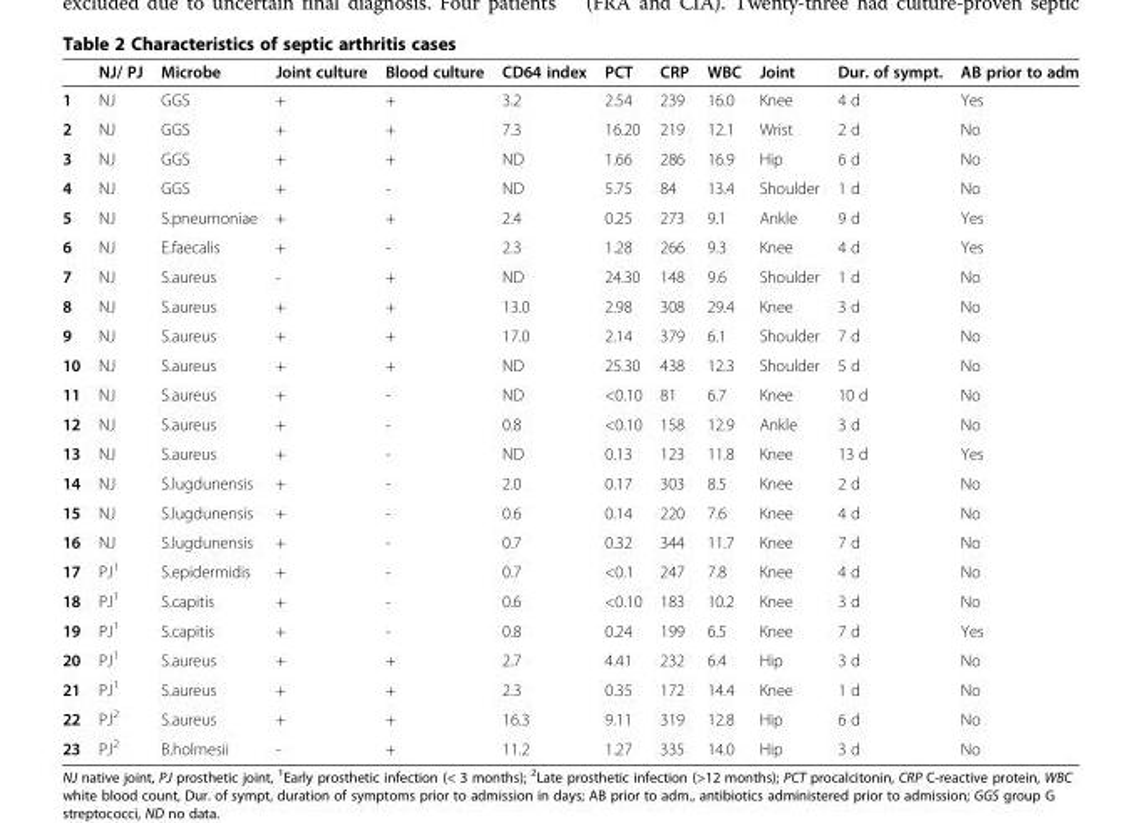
<table><thead><tr><td></td><td>NJ/ PJ</td><td>Microbe</td><td>Joint culture</td><td>Blood culture</td><td>CD64 index</td><td>PCT</td><td>CRP</td><td>WBC</td><td>Joint</td><td>Dur. of sympt.</td><td>AB prior to adm</td></tr></thead><tbody><tr><td>1</td><td>NJ</td><td>GGS</td><td>+</td><td>+</td><td>3.2</td><td>2.54</td><td>239</td><td>16.0</td><td>Knee</td><td>4 d</td><td>Yes</td></tr><tr><td>2</td><td>NJ</td><td>GGS</td><td>+</td><td>+</td><td>7.3</td><td>16.20</td><td>219</td><td>12.1</td><td>Wrist</td><td>2 d</td><td>No</td></tr><tr><td>3</td><td>NJ</td><td>GGS</td><td>+</td><td>+</td><td>ND</td><td>1.66</td><td>286</td><td>16.9</td><td>Hip</td><td>6 d</td><td>No</td></tr><tr><td>4</td><td>NJ</td><td>GGS</td><td>+</td><td>-</td><td>ND</td><td>5.75</td><td>84</td><td>13.4</td><td>Shoulder</td><td>1 d</td><td>No</td></tr><tr><td>5</td><td>NJ</td><td>S.pneumoniae</td><td>+</td><td>+</td><td>2.4</td><td>0.25</td><td>273</td><td>9.1</td><td>Ankle</td><td>9 d</td><td>Yes</td></tr><tr><td>6</td><td>NJ</td><td>E.faecalis</td><td>+</td><td>-</td><td>2.3</td><td>1.28</td><td>266</td><td>9.3</td><td>Knee</td><td>4 d</td><td>Yes</td></tr><tr><td>7</td><td>NJ</td><td>S.aureus</td><td>-</td><td>+</td><td>ND</td><td>24.30</td><td>148</td><td>9.6</td><td>Shoulder</td><td>1 d</td><td>No</td></tr><tr><td>8</td><td>NJ</td><td>S.aureus</td><td>+</td><td>+</td><td>13.0</td><td>2.98</td><td>308</td><td>29.4</td><td>Knee</td><td>3 d</td><td>No</td></tr><tr><td>9</td><td>NJ</td><td>S.aureus</td><td>+</td><td>+</td><td>17.0</td><td>2.14</td><td>379</td><td>6.1</td><td>Shoulder</td><td>7 d</td><td>No</td></tr><tr><td>10</td><td>NJ</td><td>S.aureus</td><td>+</td><td>+</td><td>ND</td><td>25.30</td><td>438</td><td>12.3</td><td>Shoulder</td><td>5 d</td><td>No</td></tr><tr><td>11</td><td>NJ</td><td>S.aureus</td><td>+</td><td>-</td><td>ND</td><td>&lt;0.10</td><td>81</td><td>6.7</td><td>Knee</td><td>10 d</td><td>No</td></tr><tr><td>12</td><td>NJ</td><td>S.aureus</td><td>+</td><td>-</td><td>0.8</td><td>&lt;0.10</td><td>158</td><td>12.9</td><td>Ankle</td><td>3 d</td><td>No</td></tr><tr><td>13</td><td>NJ</td><td>S.aureus</td><td>+</td><td>-</td><td>ND</td><td>0.13</td><td>123</td><td>11.8</td><td>Knee</td><td>13 d</td><td>Yes</td></tr><tr><td>14</td><td>NJ</td><td>S.lugdunensis</td><td>+</td><td>-</td><td>2.0</td><td>0.17</td><td>303</td><td>8.5</td><td>Knee</td><td>2 d</td><td>No</td></tr><tr><td>15</td><td>NJ</td><td>S.lugdunensis</td><td>+</td><td>-</td><td>0.6</td><td>0.14</td><td>220</td><td>7.6</td><td>Knee</td><td>4 d</td><td>No</td></tr><tr><td>16</td><td>NJ</td><td>S.lugdunensis</td><td>+</td><td>-</td><td>0.7</td><td>0.32</td><td>344</td><td>11.7</td><td>Knee</td><td>7 d</td><td>No</td></tr><tr><td>17</td><td>PJ<sup>1</sup></td><td>S.epidermidis</td><td>+</td><td>-</td><td>0.7</td><td>&lt;0.1</td><td>247</td><td>7.8</td><td>Knee</td><td>4 d</td><td>No</td></tr><tr><td>18</td><td>PJ<sup>1</sup></td><td>S.capitis</td><td>+</td><td>-</td><td>0.6</td><td>&lt;0.10</td><td>183</td><td>10.2</td><td>Knee</td><td>3 d</td><td>No</td></tr><tr><td>19</td><td>PJ<sup>1</sup></td><td>S.capitis</td><td>+</td><td>-</td><td>0.8</td><td>0.24</td><td>199</td><td>6.5</td><td>Knee</td><td>7 d</td><td>Yes</td></tr><tr><td>20</td><td>PJ<sup>1</sup></td><td>S.aureus</td><td>+</td><td>+</td><td>2.7</td><td>4.41</td><td>232</td><td>6.4</td><td>Hip</td><td>3 d</td><td>No</td></tr><tr><td>21</td><td>PJ<sup>1</sup></td><td>S.aureus</td><td>+</td><td>+</td><td>2.3</td><td>0.35</td><td>172</td><td>14.4</td><td>Knee</td><td>1 d</td><td>No</td></tr><tr><td>22</td><td>PJ<sup>2</sup></td><td>S.aureus</td><td>+</td><td>+</td><td>16.3</td><td>9.11</td><td>319</td><td>12.8</td><td>Hip</td><td>6 d</td><td>No</td></tr><tr><td>23</td><td>PJ<sup>2</sup></td><td>B.holmesii</td><td>-</td><td>+</td><td>11.2</td><td>1.27</td><td>335</td><td>14.0</td><td>Hip</td><td>3 d</td><td>No</td></tr></tbody></table>